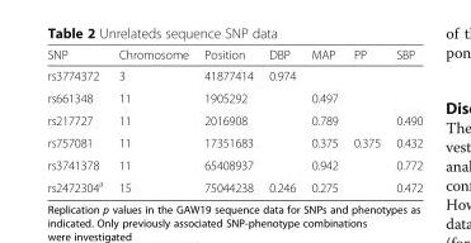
<table><thead><tr><td>SNP</td><td>Chromosome</td><td>Position</td><td>DBP</td><td>MAP</td><td>PP</td><td>SBP</td></tr></thead><tbody><tr><td>rs3774372</td><td>3</td><td>41877414</td><td>0.974</td><td></td><td></td><td></td></tr><tr><td>rs661348</td><td>11</td><td>1905292</td><td></td><td>0.497</td><td></td><td></td></tr><tr><td>rs217727</td><td>11</td><td>2016908</td><td></td><td>0.789</td><td></td><td>0.490</td></tr><tr><td>rs757081</td><td>11</td><td>17351683</td><td></td><td>0.375</td><td>0.375</td><td>0.432</td></tr><tr><td>rs3741378</td><td>11</td><td>65408937</td><td></td><td>0.942</td><td></td><td>0.772</td></tr><tr><td>rs2472304<sup>a</sup></td><td>15</td><td>75044238</td><td>0.246</td><td>0.275</td><td></td><td>0.472</td></tr></tbody></table>